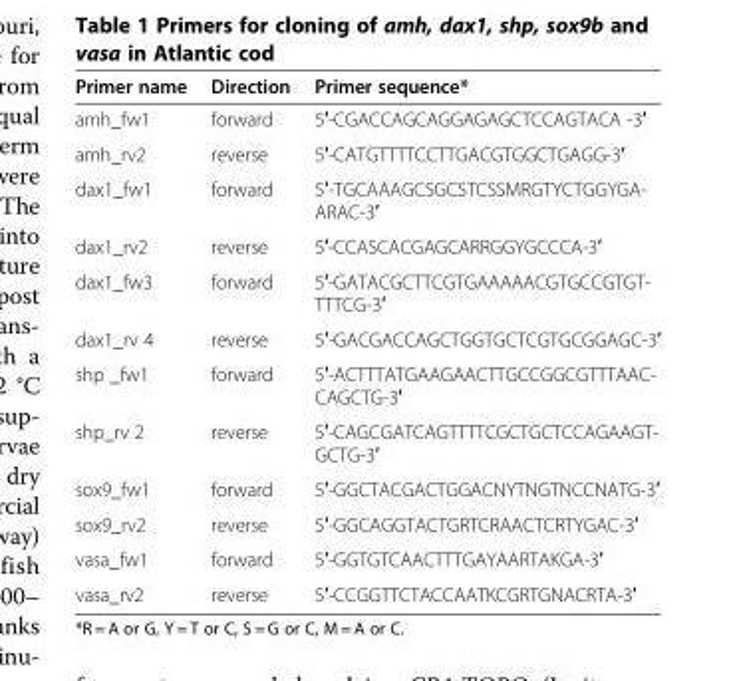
<table><thead><tr><td>Primer name</td><td>Direction</td><td>Primer sequence*</td></tr></thead><tbody><tr><td>amh_fw1</td><td>forward</td><td>5′-CGACCAGCAGGAGAGCTCCAGTACA -3′</td></tr><tr><td>amh_rv2</td><td>reverse</td><td>5′-CATGTTTTCCTTGACGTGGCTGAGG-3′</td></tr><tr><td>dax1_fw1</td><td>forward</td><td>5′-TGCAAAGCSGCSTCSSMRGTYCTGGYGA- ARAC-3′</td></tr><tr><td>dax1_rv2</td><td>reverse</td><td>5′-CCASCACGAGCARRGGYGCCCA-3′</td></tr><tr><td>dax1_fw3</td><td>forward</td><td>5′-GATACGCTTCGTGAAAAACGTGCCGTGT- TTTCG-3′</td></tr><tr><td>dax1_rv 4</td><td>reverse</td><td>5′-GACGACCAGCTGGTGCTCGTGCGGAGC-3′</td></tr><tr><td>shp _fw1</td><td>forward</td><td>5′-ACTTTATGAAGAACTTGCCGGCGTTTAAC- CAGCTG-3′</td></tr><tr><td>shp_rv 2</td><td>reverse</td><td>5′-CAGCGATCAGTTTTCGCTGCTCCAGAAGT- GCTG-3′</td></tr><tr><td>sox9_fw1</td><td>forward</td><td>5′-GGCTACGACTGGACNYTNGTNCCNATG-3′</td></tr><tr><td>sox9_rv2</td><td>reverse</td><td>5′-GGCAGGTACTGRTCRAACTCRTYGAC-3′</td></tr><tr><td>vasa_fw1</td><td>forward</td><td>5′-GGTGTCAACTTTGAYAARTAKGA-3′</td></tr><tr><td>vasa_rv2</td><td>reverse</td><td>5′-CCGGTTCTACCAATKCGRTGNACRTA-3′</td></tr></tbody></table>